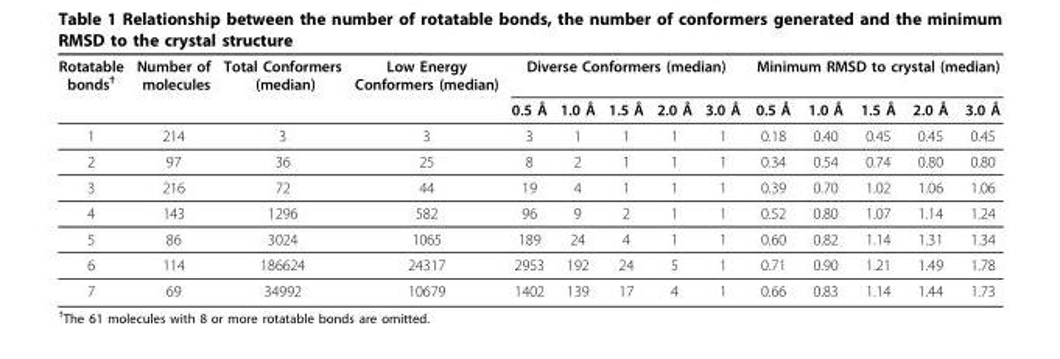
<table><thead><tr><td rowspan="2">Rotatable bonds<sup>†</sup></td><td rowspan="2">Number of molecules</td><td rowspan="2">Total Conformers (median)</td><td rowspan="2">Low Energy Conformers (median)</td><td colspan="5">Diverse Conformers (median)</td><td colspan="5">Minimum RMSD to crystal (median)</td></tr><tr><td>0.5 Å</td><td>1.0 Å</td><td>1.5 Å</td><td>2.0 Å</td><td>3.0 Å</td><td>0.5 Å</td><td>1.0 Å</td><td>1.5 Å</td><td>2.0 Å</td><td>3.0 Å</td></tr></thead><tbody><tr><td>1</td><td>214</td><td>3</td><td>3</td><td>3</td><td>1</td><td>1</td><td>1</td><td>1</td><td>0.18</td><td>0.40</td><td>0.45</td><td>0.45</td><td>0.45</td></tr><tr><td>2</td><td>97</td><td>36</td><td>25</td><td>8</td><td>2</td><td>1</td><td>1</td><td>1</td><td>0.34</td><td>0.54</td><td>0.74</td><td>0.80</td><td>0.80</td></tr><tr><td>3</td><td>216</td><td>72</td><td>44</td><td>19</td><td>4</td><td>1</td><td>1</td><td>1</td><td>0.39</td><td>0.70</td><td>1.02</td><td>1.06</td><td>1.06</td></tr><tr><td>4</td><td>143</td><td>1296</td><td>582</td><td>96</td><td>9</td><td>2</td><td>1</td><td>1</td><td>0.52</td><td>0.80</td><td>1.07</td><td>1.14</td><td>1.24</td></tr><tr><td>5</td><td>86</td><td>3024</td><td>1065</td><td>189</td><td>24</td><td>4</td><td>1</td><td>1</td><td>0.60</td><td>0.82</td><td>1.14</td><td>1.31</td><td>1.34</td></tr><tr><td>6</td><td>114</td><td>186624</td><td>24317</td><td>2953</td><td>192</td><td>24</td><td>5</td><td>1</td><td>0.71</td><td>0.90</td><td>1.21</td><td>1.49</td><td>1.78</td></tr><tr><td>7</td><td>69</td><td>34992</td><td>10679</td><td>1402</td><td>139</td><td>17</td><td>4</td><td>1</td><td>0.66</td><td>0.83</td><td>1.14</td><td>1.44</td><td>1.73</td></tr></tbody></table>